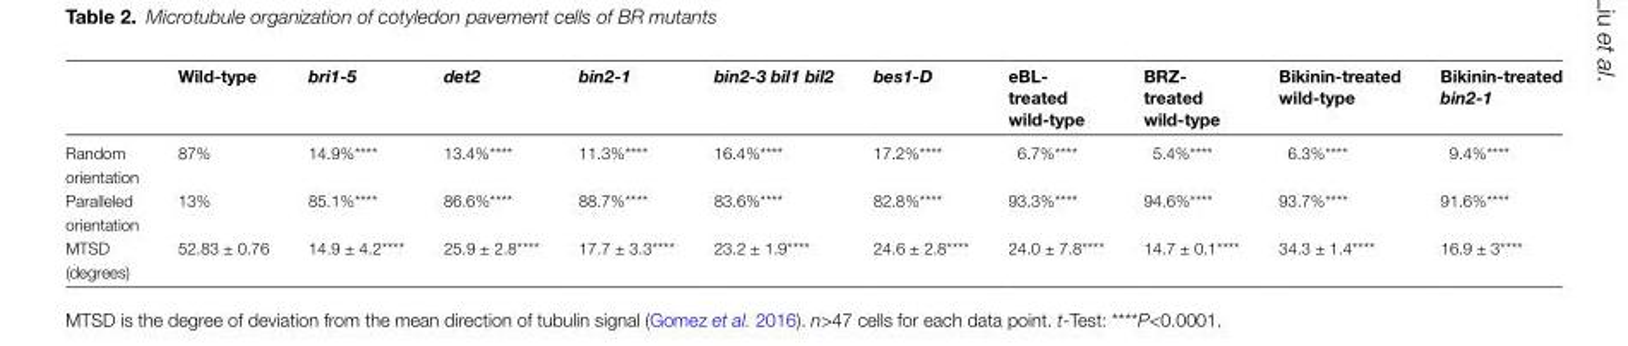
<table><thead><tr><td></td><td>Wild-type</td><td>bri1-5</td><td>det2</td><td>bin2-1</td><td>bin2-3 bil1 bil2</td><td>bes1-D</td><td>eBL- treated wild-type</td><td>BRZ- treated wild-type</td><td>Bikinin-treated wild-type</td><td>Bikinin-treated bin2-1</td></tr></thead><tbody><tr><td>Random orientation</td><td>87%</td><td>14.9%****</td><td>13.4%****</td><td>11.3%****</td><td>16.4%****</td><td>17.2%****</td><td>6.7%****</td><td>5.4%****</td><td>6.3%****</td><td>9.4%****</td></tr><tr><td>Paralleled orientation</td><td>13%</td><td>85.1%****</td><td>86.6%****</td><td>88.7%****</td><td>83.6%****</td><td>82.8%****</td><td>93.3%****</td><td>94.6%****</td><td>93.7%****</td><td>91.6%****</td></tr><tr><td>MTSD (degrees)</td><td>52.83 ± 0.76</td><td>14.9 ± 4.2****</td><td>25.9 ± 2.8****</td><td>17.7 ± 3.3****</td><td>23.2 ± 1.9****</td><td>24.6 ± 2.8****</td><td>24.0 ± 7.8****</td><td>14.7 ± 0.1****</td><td>34.3 ± 1.4****</td><td>16.9 ± 3****</td></tr></tbody></table>